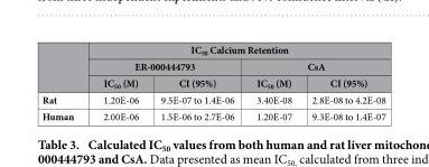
<table><thead><tr><td rowspan="3"></td><td colspan="4">IC<sub>50</sub> Calcium Retention</td></tr><tr><td colspan="2">ER-000444793</td><td colspan="2">CsA</td></tr><tr><td>IC<sub>50</sub> (M)</td><td>CI (95%)</td><td>IC<sub>50</sub> (M)</td><td>CI (95%)</td></tr></thead><tbody><tr><td>Rat</td><td>1.20E-06</td><td>9.5E-07 to 1.4E-06</td><td>3.40E-08</td><td>2.8E-08 to 4.2E-08</td></tr><tr><td>Human</td><td>2.00E-06</td><td>1.5E-06 to 2.7E-06</td><td>1.20E-07</td><td>9.3E-08 to 1.4E-07</td></tr></tbody></table>